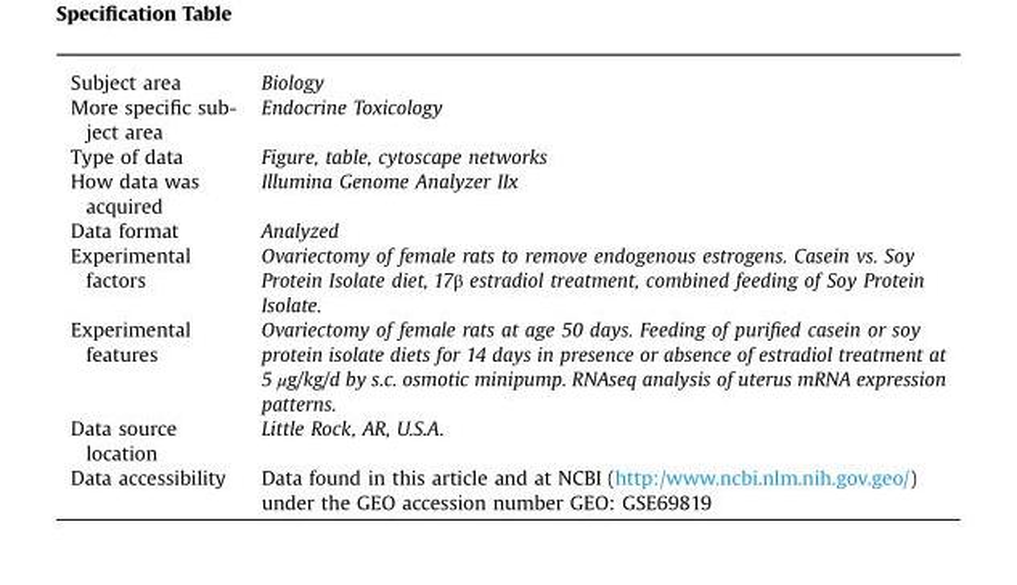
<table><tbody><tr><td>Subject area</td><td>Biology</td></tr><tr><td>More specific sub- ject area</td><td>Endocrine Toxicology</td></tr><tr><td>Type of data</td><td>Figure, table, cytoscape networks</td></tr><tr><td>How data was acquired</td><td>Illumina Genome Analyzer IIx</td></tr><tr><td>Data format</td><td>Analyzed</td></tr><tr><td>Experimental factors</td><td>Ovariectomy of female rats to remove endogenous estrogens. Casein vs. Soy Protein Isolate diet, 17β estradiol treatment, combined feeding of Soy Protein Isolate.</td></tr><tr><td>Experimental features</td><td>Ovariectomy of female rats at age 50 days. Feeding of purified casein or soy protein isolate diets for 14 days in presence or absence of estradiol treatment at 5 μg/kg/d by s.c. osmotic minipump. RNAseq analysis of uterus mRNA expression patterns.</td></tr><tr><td>Data source location</td><td>Little Rock, AR, U.S.A.</td></tr><tr><td>Data accessibility</td><td>Data found in this article and at NCBI (http:/www.ncbi.nlm.nih.gov.geo/) under the GEO accession number GEO: GSE69819</td></tr></tbody></table>